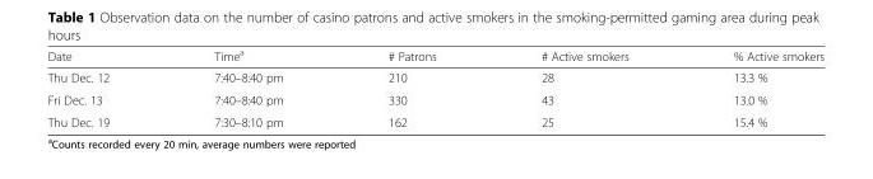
<table><thead><tr><td>Date</td><td>Time<sup>a</sup></td><td># Patrons</td><td># Active smokers</td><td>% Active smokers</td></tr></thead><tbody><tr><td>Thu Dec. 12</td><td>7:40–8:40 pm</td><td>210</td><td>28</td><td>13.3 %</td></tr><tr><td>Fri Dec. 13</td><td>7:40–8:40 pm</td><td>330</td><td>43</td><td>13.0 %</td></tr><tr><td>Thu Dec. 19</td><td>7:30–8:10 pm</td><td>162</td><td>25</td><td>15.4 %</td></tr></tbody></table>